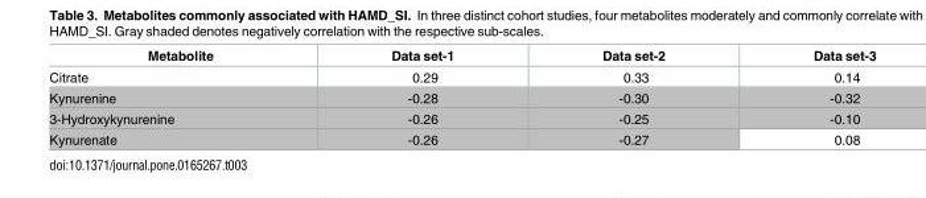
<table><thead><tr><td>Metabolite</td><td>Data set-1</td><td>Data set-2</td><td>Data set-3</td></tr></thead><tbody><tr><td>Citrate</td><td>0.29</td><td>0.33</td><td>0.14</td></tr><tr><td>Kynurenine</td><td>-0.28</td><td>-0.30</td><td>-0.32</td></tr><tr><td>3-Hydroxykynurenine</td><td>-0.26</td><td>-0.25</td><td>-0.10</td></tr><tr><td>Kynurenate</td><td>-0.26</td><td>-0.27</td><td>0.08</td></tr></tbody></table>